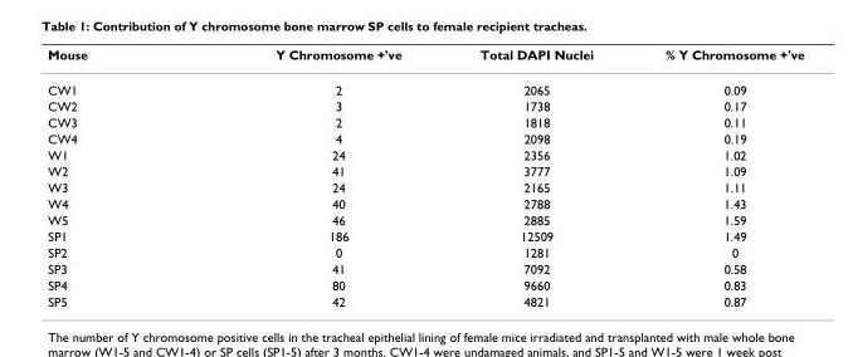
<table><thead><tr><td>Mouse</td><td>Y Chromosome +&#x27;ve</td><td>Total DAPI Nuclei</td><td>% Y Chromosome +&#x27;ve</td></tr></thead><tbody><tr><td>CW1</td><td>2</td><td>2065</td><td>0.09</td></tr><tr><td>CW2</td><td>3</td><td>1738</td><td>0.17</td></tr><tr><td>CW3</td><td>2</td><td>1818</td><td>0.11</td></tr><tr><td>CW4</td><td>4</td><td>2098</td><td>0.19</td></tr><tr><td>W1</td><td>24</td><td>2356</td><td>1.02</td></tr><tr><td>W2</td><td>41</td><td>3777</td><td>1.09</td></tr><tr><td>W3</td><td>24</td><td>2165</td><td>1.11</td></tr><tr><td>W4</td><td>40</td><td>2788</td><td>1.43</td></tr><tr><td>W5</td><td>46</td><td>2885</td><td>1.59</td></tr><tr><td>SP1</td><td>186</td><td>12509</td><td>1.49</td></tr><tr><td>SP2</td><td>0</td><td>1281</td><td>0</td></tr><tr><td>SP3</td><td>41</td><td>7092</td><td>0.58</td></tr><tr><td>SP4</td><td>80</td><td>9660</td><td>0.83</td></tr><tr><td>SP5</td><td>42</td><td>4821</td><td>0.87</td></tr></tbody></table>